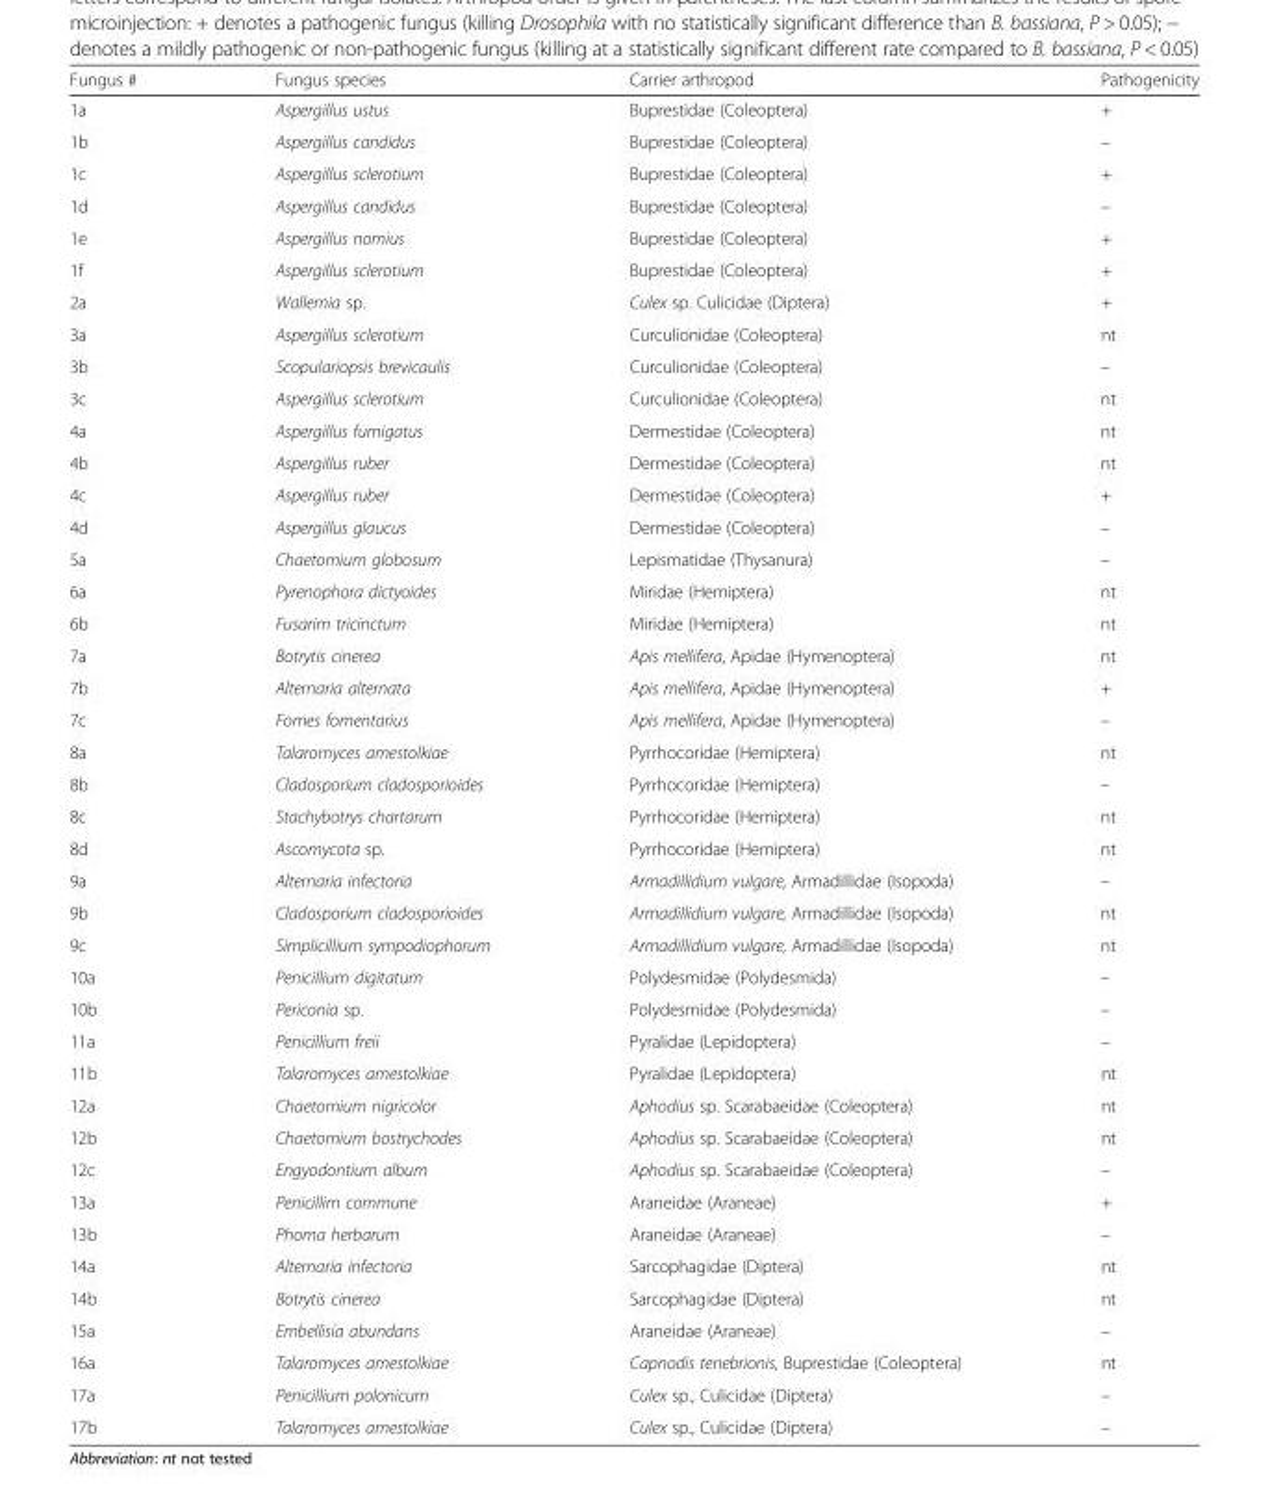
<table><thead><tr><td>Fungus #</td><td>Fungus species</td><td>Carrier arthropod</td><td>Pathogenicity</td></tr></thead><tbody><tr><td>1a</td><td>Aspergillus ustus</td><td>Buprestidae (Coleoptera)</td><td>+</td></tr><tr><td>1b</td><td>Aspergillus candidus</td><td>Buprestidae (Coleoptera)</td><td>–</td></tr><tr><td>1c</td><td>Aspergillus sclerotium</td><td>Buprestidae (Coleoptera)</td><td>+</td></tr><tr><td>1d</td><td>Aspergillus candidus</td><td>Buprestidae (Coleoptera)</td><td>–</td></tr><tr><td>1e</td><td>Aspergillus nomius</td><td>Buprestidae (Coleoptera)</td><td>+</td></tr><tr><td>1f</td><td>Aspergillus sclerotium</td><td>Buprestidae (Coleoptera)</td><td>+</td></tr><tr><td>2a</td><td>Wallemia sp.</td><td>Culex sp. Culicidae (Diptera)</td><td>+</td></tr><tr><td>3a</td><td>Aspergillus sclerotium</td><td>Curculionidae (Coleoptera)</td><td>nt</td></tr><tr><td>3b</td><td>Scopulariopsis brevicaulis</td><td>Curculionidae (Coleoptera)</td><td>–</td></tr><tr><td>3c</td><td>Aspergillus sclerotium</td><td>Curculionidae (Coleoptera)</td><td>nt</td></tr><tr><td>4a</td><td>Aspergillus fumigatus</td><td>Dermestidae (Coleoptera)</td><td>nt</td></tr><tr><td>4b</td><td>Aspergillus ruber</td><td>Dermestidae (Coleoptera)</td><td>nt</td></tr><tr><td>4c</td><td>Aspergillus ruber</td><td>Dermestidae (Coleoptera)</td><td>+</td></tr><tr><td>4d</td><td>Aspergillus glaucus</td><td>Dermestidae (Coleoptera)</td><td>–</td></tr><tr><td>5a</td><td>Chaetomium globosum</td><td>Lepismatidae (Thysanura)</td><td>–</td></tr><tr><td>6a</td><td>Pyrenophora dictyoides</td><td>Miridae (Hemiptera)</td><td>nt</td></tr><tr><td>6b</td><td>Fusarim tricinctum</td><td>Miridae (Hemiptera)</td><td>nt</td></tr><tr><td>7a</td><td>Botrytis cinerea</td><td>Apis mellifera, Apidae (Hymenoptera)</td><td>nt</td></tr><tr><td>7b</td><td>Alternaria alternata</td><td>Apis mellifera, Apidae (Hymenoptera)</td><td>+</td></tr><tr><td>7c</td><td>Fomes fomentarius</td><td>Apis mellifera, Apidae (Hymenoptera)</td><td>–</td></tr><tr><td>8a</td><td>Talaromyces amestolkiae</td><td>Pyrrhocoridae (Hemiptera)</td><td>nt</td></tr><tr><td>8b</td><td>Cladosporium cladosporioides</td><td>Pyrrhocoridae (Hemiptera)</td><td>–</td></tr><tr><td>8c</td><td>Stachybotrys chartarum</td><td>Pyrrhocoridae (Hemiptera)</td><td>nt</td></tr><tr><td>8d</td><td>Ascomycota sp.</td><td>Pyrrhocoridae (Hemiptera)</td><td>nt</td></tr><tr><td>9a</td><td>Alternaria infectoria</td><td>Armadillidium vulgare, Armadillidae (Isopoda)</td><td>–</td></tr><tr><td>9b</td><td>Cladosporium cladosporioides</td><td>Armadillidium vulgare, Armadillidae (Isopoda)</td><td>nt</td></tr><tr><td>9c</td><td>Simplicillium sympodiophorum</td><td>Armadillidium vulgare, Armadillidae (Isopoda)</td><td>nt</td></tr><tr><td>10a</td><td>Penicillium digitatum</td><td>Polydesmidae (Polydesmida)</td><td>–</td></tr><tr><td>10b</td><td>Periconia sp.</td><td>Polydesmidae (Polydesmida)</td><td>–</td></tr><tr><td>11a</td><td>Penicillium freii</td><td>Pyralidae (Lepidoptera)</td><td>–</td></tr><tr><td>11b</td><td>Talaromyces amestolkiae</td><td>Pyralidae (Lepidoptera)</td><td>nt</td></tr><tr><td>12a</td><td>Chaetomium nigricolor</td><td>Aphodius sp. Scarabaeidae (Coleoptera)</td><td>nt</td></tr><tr><td>12b</td><td>Chaetomium bostrychodes</td><td>Aphodius sp. Scarabaeidae (Coleoptera)</td><td>nt</td></tr><tr><td>12c</td><td>Engyodontium album</td><td>Aphodius sp. Scarabaeidae (Coleoptera)</td><td>–</td></tr><tr><td>13a</td><td>Penicillim commune</td><td>Araneidae (Araneae)</td><td>+</td></tr><tr><td>13b</td><td>Phoma herbarum</td><td>Araneidae (Araneae)</td><td>–</td></tr><tr><td>14a</td><td>Alternaria infectoria</td><td>Sarcophagidae (Diptera)</td><td>nt</td></tr><tr><td>14b</td><td>Botrytis cinerea</td><td>Sarcophagidae (Diptera)</td><td>nt</td></tr><tr><td>15a</td><td>Embellisia abundans</td><td>Araneidae (Araneae)</td><td>–</td></tr><tr><td>16a</td><td>Talaromyces amestolkiae</td><td>Capnodis tenebrionis, Buprestidae (Coleoptera)</td><td>nt</td></tr><tr><td>17a</td><td>Penicillium polonicum</td><td>Culex sp., Culicidae (Diptera)</td><td>–</td></tr><tr><td>17b</td><td>Talaromyces amestolkiae</td><td>Culex sp., Culicidae (Diptera)</td><td>–</td></tr></tbody></table>